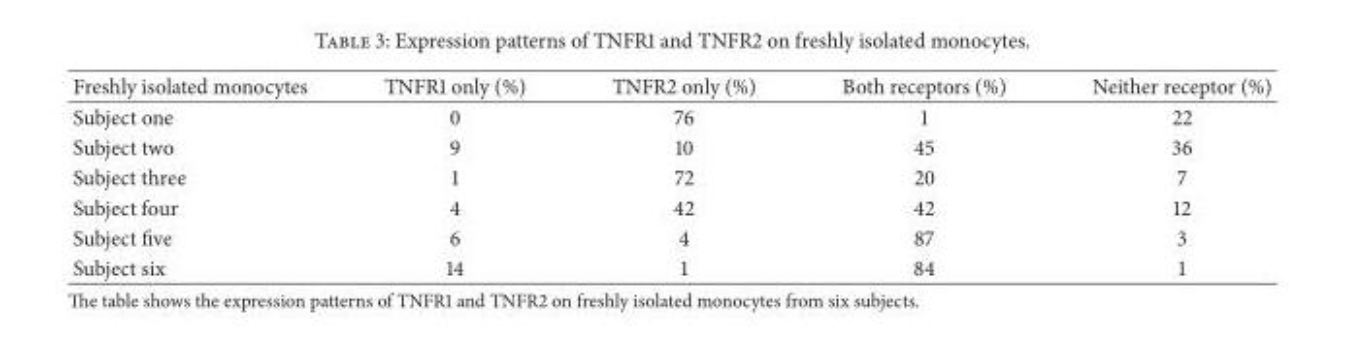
<table><thead><tr><td>Freshly isolated monocytes</td><td>TNFR1 only (%)</td><td>TNFR2 only (%)</td><td>Both receptors (%)</td><td>Neither receptor (%)</td></tr></thead><tbody><tr><td>Subject one</td><td>0</td><td>76</td><td>1</td><td>22</td></tr><tr><td>Subject two</td><td>9</td><td>10</td><td>45</td><td>36</td></tr><tr><td>Subject three</td><td>1</td><td>72</td><td>20</td><td>7</td></tr><tr><td>Subject four</td><td>4</td><td>42</td><td>42</td><td>12</td></tr><tr><td>Subject five</td><td>6</td><td>4</td><td>87</td><td>3</td></tr><tr><td>Subject six</td><td>14</td><td>1</td><td>84</td><td>1</td></tr></tbody></table>